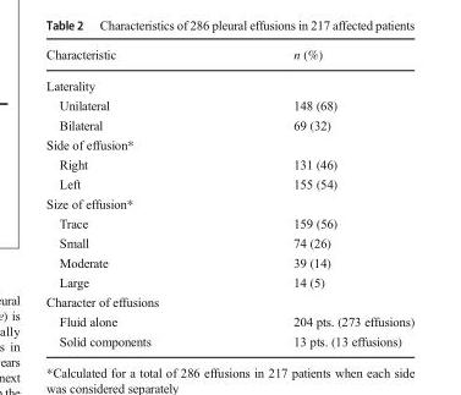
<table><thead><tr><td>Characteristic</td><td>n (%)</td></tr></thead><tbody><tr><td colspan="2">Laterality</td></tr><tr><td>Unilateral</td><td>148 (68)</td></tr><tr><td>Bilateral</td><td>69 (32)</td></tr><tr><td colspan="2">Side of effusion*</td></tr><tr><td>Right</td><td>131 (46)</td></tr><tr><td>Left</td><td>155 (54)</td></tr><tr><td colspan="2">Size of effusion*</td></tr><tr><td>Trace</td><td>159 (56)</td></tr><tr><td>Small</td><td>74 (26)</td></tr><tr><td>Moderate</td><td>39 (14)</td></tr><tr><td>Large</td><td>14 (5)</td></tr><tr><td colspan="2">Character of effusions</td></tr><tr><td>Fluid alone</td><td>204 pts. (273 effusions)</td></tr><tr><td>Solid components</td><td>13 pts. (13 effusions)</td></tr></tbody></table>